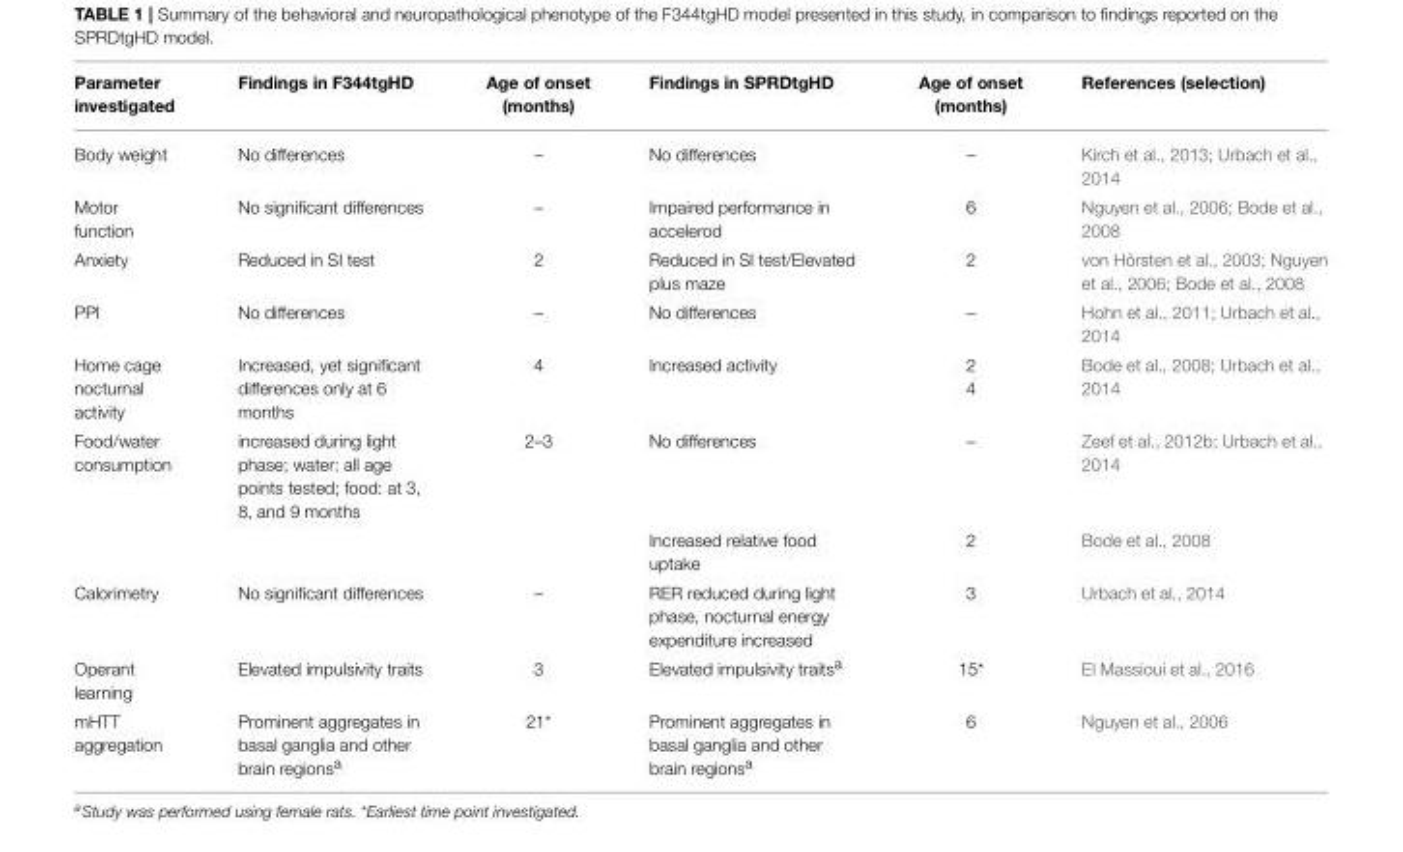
<table><thead><tr><td>Parameter investigated</td><td>Findings in F344tgHD</td><td>Age of onset (months)</td><td>Findings in SPRDtgHD</td><td>Age of onset (months)</td><td>References (selection)</td></tr></thead><tbody><tr><td>Body weight</td><td>No differences</td><td>–</td><td>No differences</td><td>–</td><td>Kirch et al., 2013; Urbach et al., 2014</td></tr><tr><td>Motor function</td><td>No significant differences</td><td>–</td><td>Impaired performance in accelerod</td><td>6</td><td>Nguyen et al., 2006; Bode et al., 2008</td></tr><tr><td>Anxiety</td><td>Reduced in SI test</td><td>2</td><td>Reduced in SI test/Elevated plus maze</td><td>2</td><td>von Hörsten et al., 2003; Nguyen et al., 2006; Bode et al., 2008</td></tr><tr><td>PPI</td><td>No differences</td><td>–</td><td>No differences</td><td>−</td><td>Hohn et al., 2011; Urbach et al., 2014</td></tr><tr><td>Home cage nocturnal activity</td><td>Increased, yet significant differences only at 6 months</td><td>4</td><td>Increased activity</td><td>2 4</td><td>Bode et al., 2008; Urbach et al., 2014</td></tr><tr><td rowspan="2">Food/water consumption</td><td>increased during light phase; water: all age points tested; food: at 3, 8, and 9 months</td><td>2–3</td><td>No differences</td><td>–</td><td>Zeef et al., 2012b; Urbach et al., 2014</td></tr><tr><td></td><td></td><td>Increased relative food uptake</td><td>2</td><td>Bode et al., 2008</td></tr><tr><td>Calorimetry</td><td>No significant differences</td><td>–</td><td>RER reduced during light phase, nocturnal energy expenditure increased</td><td>3</td><td>Urbach et al., 2014</td></tr><tr><td>Operant learning</td><td>Elevated impulsivity traits</td><td>3</td><td>Elevated impulsivity traits<sup>a</sup></td><td>15*</td><td>El Massioui et al., 2016</td></tr><tr><td>mHTT aggregation</td><td>Prominent aggregates in basal ganglia and other brain regions<sup>a</sup></td><td>21*</td><td>Prominent aggregates in basal ganglia and other brain regions<sup>a</sup></td><td>6</td><td>Nguyen et al., 2006</td></tr></tbody></table>